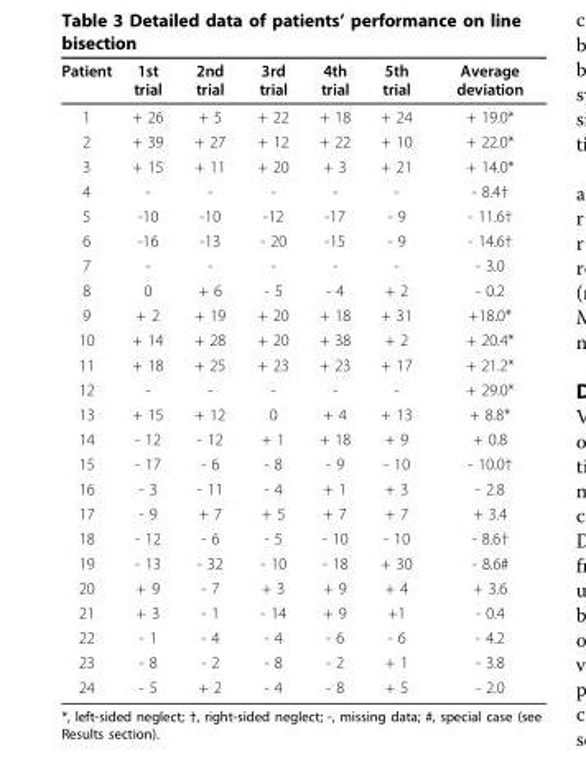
<table><thead><tr><td>Patient</td><td>1st trial</td><td>2nd trial</td><td>3rd trial</td><td>4th trial</td><td>5th trial</td><td>Average deviation</td></tr></thead><tbody><tr><td>1</td><td>+ 26</td><td>+ 5</td><td>+ 22</td><td>+ 18</td><td>+ 24</td><td>+ 19.0*</td></tr><tr><td>2</td><td>+ 39</td><td>+ 27</td><td>+ 12</td><td>+ 22</td><td>+ 10</td><td>+ 22.0*</td></tr><tr><td>3</td><td>+ 15</td><td>+ 11</td><td>+ 20</td><td>+ 3</td><td>+ 21</td><td>+ 14.0*</td></tr><tr><td>4</td><td>-</td><td>-</td><td>-</td><td>-</td><td>-</td><td>- 8.4†</td></tr><tr><td>5</td><td>-10</td><td>-10</td><td>-12</td><td>-17</td><td>- 9</td><td>- 11.6†</td></tr><tr><td>6</td><td>-16</td><td>-13</td><td>- 20</td><td>-15</td><td>- 9</td><td>- 14.6†</td></tr><tr><td>7</td><td>-</td><td>-</td><td>-</td><td>-</td><td>-</td><td>- 3.0</td></tr><tr><td>8</td><td>0</td><td>+ 6</td><td>- 5</td><td>- 4</td><td>+ 2</td><td>- 0.2</td></tr><tr><td>9</td><td>+ 2</td><td>+ 19</td><td>+ 20</td><td>+ 18</td><td>+ 31</td><td>+18.0*</td></tr><tr><td>10</td><td>+ 14</td><td>+ 28</td><td>+ 20</td><td>+ 38</td><td>+ 2</td><td>+ 20.4*</td></tr><tr><td>11</td><td>+ 18</td><td>+ 25</td><td>+ 23</td><td>+ 23</td><td>+ 17</td><td>+ 21.2*</td></tr><tr><td>12</td><td>-</td><td>-</td><td>-</td><td>-</td><td>-</td><td>+ 29.0*</td></tr><tr><td>13</td><td>+ 15</td><td>+ 12</td><td>0</td><td>+ 4</td><td>+ 13</td><td>+ 8.8*</td></tr><tr><td>14</td><td>- 12</td><td>- 12</td><td>+ 1</td><td>+ 18</td><td>+ 9</td><td>+ 0.8</td></tr><tr><td>15</td><td>- 17</td><td>- 6</td><td>- 8</td><td>- 9</td><td>- 10</td><td>- 10.0†</td></tr><tr><td>16</td><td>- 3</td><td>- 11</td><td>- 4</td><td>+ 1</td><td>+ 3</td><td>- 2.8</td></tr><tr><td>17</td><td>- 9</td><td>+ 7</td><td>+ 5</td><td>+ 7</td><td>+ 7</td><td>+ 3.4</td></tr><tr><td>18</td><td>- 12</td><td>- 6</td><td>- 5</td><td>- 10</td><td>- 10</td><td>- 8.6†</td></tr><tr><td>19</td><td>- 13</td><td>- 32</td><td>- 10</td><td>- 18</td><td>+ 30</td><td>- 8.6#</td></tr><tr><td>20</td><td>+ 9</td><td>- 7</td><td>+ 3</td><td>+ 9</td><td>+ 4</td><td>+ 3.6</td></tr><tr><td>21</td><td>+ 3</td><td>- 1</td><td>- 14</td><td>+ 9</td><td>+1</td><td>- 0.4</td></tr><tr><td>22</td><td>- 1</td><td>- 4</td><td>- 4</td><td>- 6</td><td>- 6</td><td>- 4.2</td></tr><tr><td>23</td><td>- 8</td><td>- 2</td><td>- 8</td><td>- 2</td><td>+ 1</td><td>- 3.8</td></tr><tr><td>24</td><td>- 5</td><td>+ 2</td><td>- 4</td><td>- 8</td><td>+ 5</td><td>- 2.0</td></tr></tbody></table>